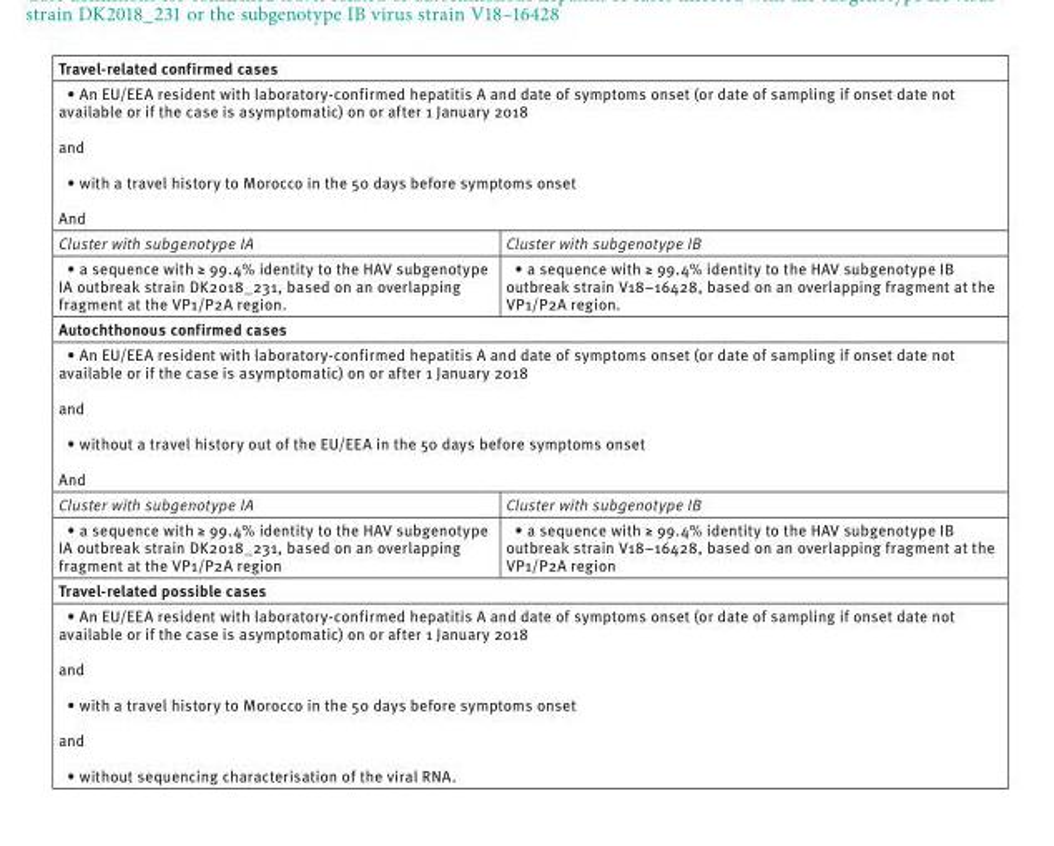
<table><tbody><tr><td colspan="2">Travel-related confirmed cases</td></tr><tr><td colspan="2">• An EU/EEA resident with laboratory-confirmed hepatitis A and date of symptoms onset (or date of sampling if onset date not available or if the case is asymptomatic) on or after 1 January 2018 and • with a travel history to Morocco in the 50 days before symptoms onset And</td></tr><tr><td>Cluster with subgenotype IA</td><td>Cluster with subgenotype IB</td></tr><tr><td>• a sequence with ≥ 99.4% identity to the HAV subgenotype IA outbreak strain DK2018_231, based on an overlapping fragment at the VP1/P2A region.</td><td>• a sequence with ≥ 99.4% identity to the HAV subgenotype IB outbreak strain V18–16428, based on an overlapping fragment at the VP1/P2A region.</td></tr><tr><td colspan="2">Autochthonous confirmed cases</td></tr><tr><td colspan="2">• An EU/EEA resident with laboratory-confirmed hepatitis A and date of symptoms onset (or date of sampling if onset date not available or if the case is asymptomatic) on or after 1 January 2018 and • without a travel history out of the EU/EEA in the 50 days before symptoms onset And</td></tr><tr><td>Cluster with subgenotype IA</td><td>Cluster with subgenotype IB</td></tr><tr><td>• a sequence with ≥ 99.4% identity to the HAV subgenotype IA outbreak strain DK2018_231, based on an overlapping fragment at the VP1/P2A region</td><td>• a sequence with ≥ 99.4% identity to the HAV subgenotype IB outbreak strain V18–16428, based on an overlapping fragment at the VP1/P2A region</td></tr><tr><td colspan="2">Travel-related possible cases</td></tr><tr><td colspan="2">• An EU/EEA resident with laboratory-confirmed hepatitis A and date of symptoms onset (or date of sampling if onset date not available or if the case is asymptomatic) on or after 1 January 2018 and • with a travel history to Morocco in the 50 days before symptoms onset and • without sequencing characterisation of the viral RNA.</td></tr></tbody></table>